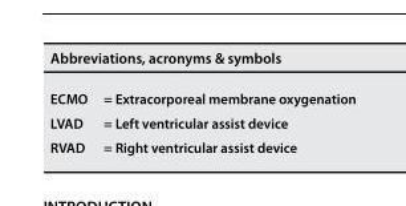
<table><thead><tr><td colspan="2">Abbreviations, acronyms &amp; symbols</td></tr><tr><td>ECMO</td><td>= Extracorporeal membrane oxygenation</td></tr></thead><tbody><tr><td>LVAD</td><td>= Left ventricular assist device</td></tr><tr><td>RVAD</td><td>= Right ventricular assist device</td></tr></tbody></table>